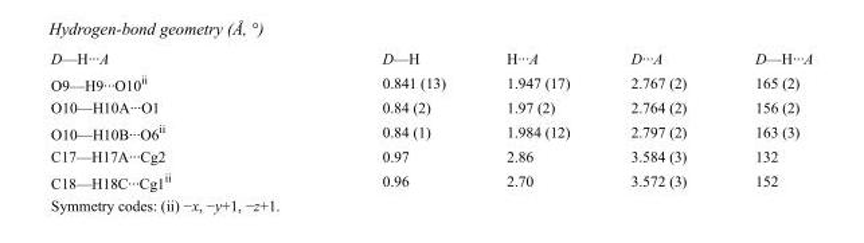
<table><tbody><tr><td>D—H···A</td><td>D—H</td><td>H···A</td><td>D···A</td><td>D—H···A</td></tr><tr><td>O9—H9···O10<sup>ii</sup></td><td>0.841 (13)</td><td>1.947 (17)</td><td>2.767 (2)</td><td>165 (2)</td></tr><tr><td>O10—H10A···O1</td><td>0.84 (2)</td><td>1.97 (2)</td><td>2.764 (2)</td><td>156 (2)</td></tr><tr><td>O10—H10B···O6<sup>ii</sup></td><td>0.84 (1)</td><td>1.984 (12)</td><td>2.797 (2)</td><td>163 (3)</td></tr><tr><td>C17—H17A···Cg2</td><td>0.97</td><td>2.86</td><td>3.584 (3)</td><td>132</td></tr><tr><td>C18—H18C···Cg1<sup>ii</sup></td><td>0.96</td><td>2.70</td><td>3.572 (3)</td><td>152</td></tr></tbody></table>